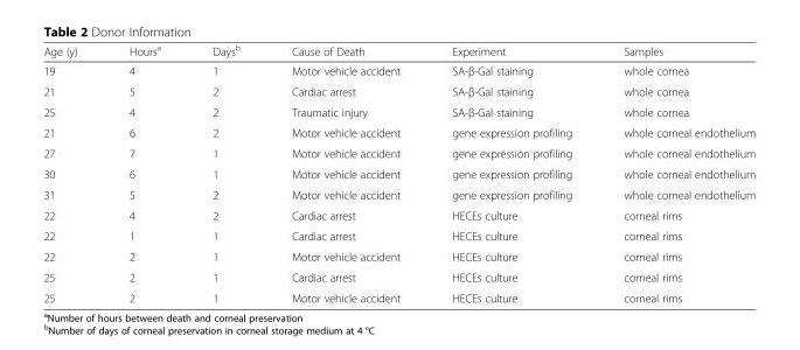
<table><thead><tr><td>Age (y)</td><td>Hours<sup>a</sup></td><td>Days<sup>b</sup></td><td>Cause of Death</td><td>Experiment</td><td>Samples</td></tr></thead><tbody><tr><td>19</td><td>4</td><td>1</td><td>Motor vehicle accident</td><td>SA-β-Gal staining</td><td>whole cornea</td></tr><tr><td>21</td><td>5</td><td>2</td><td>Cardiac arrest</td><td>SA-β-Gal staining</td><td>whole cornea</td></tr><tr><td>25</td><td>4</td><td>2</td><td>Traumatic injury</td><td>SA-β-Gal staining</td><td>whole cornea</td></tr><tr><td>21</td><td>6</td><td>2</td><td>Motor vehicle accident</td><td>gene expression profiling</td><td>whole corneal endothelium</td></tr><tr><td>27</td><td>7</td><td>1</td><td>Motor vehicle accident</td><td>gene expression profiling</td><td>whole corneal endothelium</td></tr><tr><td>30</td><td>6</td><td>1</td><td>Motor vehicle accident</td><td>gene expression profiling</td><td>whole corneal endothelium</td></tr><tr><td>31</td><td>5</td><td>2</td><td>Motor vehicle accident</td><td>gene expression profiling</td><td>whole corneal endothelium</td></tr><tr><td>22</td><td>4</td><td>2</td><td>Cardiac arrest</td><td>HECEs culture</td><td>corneal rims</td></tr><tr><td>22</td><td>1</td><td>1</td><td>Cardiac arrest</td><td>HECEs culture</td><td>corneal rims</td></tr><tr><td>22</td><td>2</td><td>1</td><td>Motor vehicle accident</td><td>HECEs culture</td><td>corneal rims</td></tr><tr><td>25</td><td>2</td><td>1</td><td>Cardiac arrest</td><td>HECEs culture</td><td>corneal rims</td></tr><tr><td>25</td><td>2</td><td>1</td><td>Motor vehicle accident</td><td>HECEs culture</td><td>corneal rims</td></tr></tbody></table>